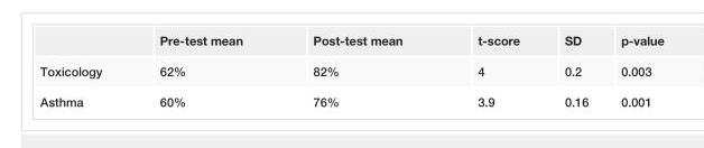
<table><thead><tr><td></td><td>Pre-test mean</td><td>Post-test mean</td><td>t-score</td><td>SD</td><td>p-value</td></tr></thead><tbody><tr><td>Toxicology</td><td>62%</td><td>82%</td><td>4</td><td>0.2</td><td>0.003</td></tr><tr><td>Asthma</td><td>60%</td><td>76%</td><td>3.9</td><td>0.16</td><td>0.001</td></tr></tbody></table>